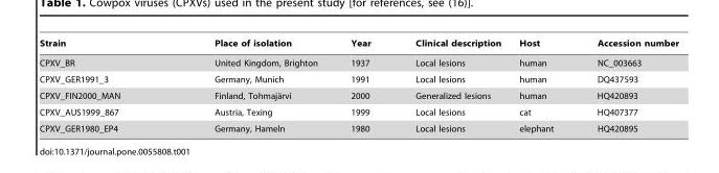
<table><thead><tr><td>Strain</td><td>Place of isolation</td><td>Year</td><td>Clinical description</td><td>Host</td><td>Accession number</td></tr></thead><tbody><tr><td>CPXV_BR</td><td>United Kingdom, Brighton</td><td>1937</td><td>Local lesions</td><td>human</td><td>NC_003663</td></tr><tr><td>CPXV_GER1991_3</td><td>Germany, Munich</td><td>1991</td><td>Local lesions</td><td>human</td><td>DQ437593</td></tr><tr><td>CPXV_FIN2000_MAN</td><td>Finland, Tohmaja¨rvi</td><td>2000</td><td>Generalized lesions</td><td>human</td><td>HQ420893</td></tr><tr><td>CPXV_AUS1999_867</td><td>Austria, Texing</td><td>1999</td><td>Local lesions</td><td>cat</td><td>HQ407377</td></tr><tr><td>CPXV_GER1980_EP4</td><td>Germany, Hameln</td><td>1980</td><td>Local lesions</td><td>elephant</td><td>HQ420895</td></tr></tbody></table>